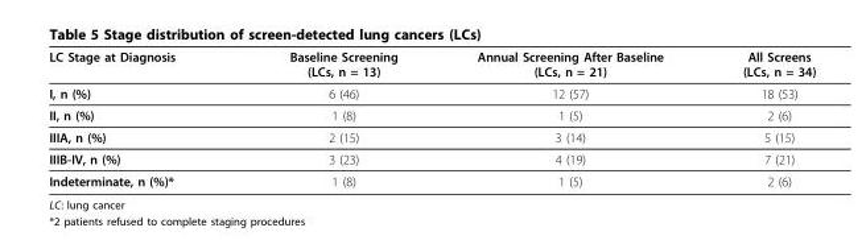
<table><thead><tr><td>LC Stage at Diagnosis</td><td>Baseline Screening (LCs, n = 13)</td><td>Annual Screening After Baseline (LCs, n = 21)</td><td>All Screens (LCs, n = 34)</td></tr></thead><tbody><tr><td>I, n (%)</td><td>6 (46)</td><td>12 (57)</td><td>18 (53)</td></tr><tr><td>II, n (%)</td><td>1 (8)</td><td>1 (5)</td><td>2 (6)</td></tr><tr><td>IIIA, n (%)</td><td>2 (15)</td><td>3 (14)</td><td>5 (15)</td></tr><tr><td>IIIB-IV, n (%)</td><td>3 (23)</td><td>4 (19)</td><td>7 (21)</td></tr><tr><td>Indeterminate, n (%)*</td><td>1 (8)</td><td>1 (5)</td><td>2 (6)</td></tr></tbody></table>